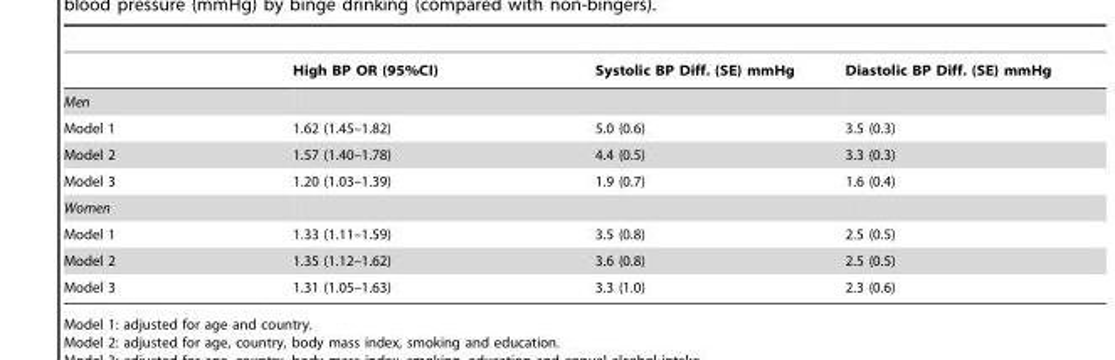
<table><thead><tr><td></td><td>High BP OR (95%CI)</td><td>Systolic BP Diff. (SE) mmHg</td><td>Diastolic BP Diff. (SE) mmHg</td></tr></thead><tbody><tr><td colspan="4">Men</td></tr><tr><td>Model 1</td><td>1.62 (1.45–1.82)</td><td>5.0 (0.6)</td><td>3.5 (0.3)</td></tr><tr><td>Model 2</td><td>1.57 (1.40–1.78)</td><td>4.4 (0.5)</td><td>3.3 (0.3)</td></tr><tr><td>Model 3</td><td>1.20 (1.03–1.39)</td><td>1.9 (0.7)</td><td>1.6 (0.4)</td></tr><tr><td colspan="4">Women</td></tr><tr><td>Model 1</td><td>1.33 (1.11–1.59)</td><td>3.5 (0.8)</td><td>2.5 (0.5)</td></tr><tr><td>Model 2</td><td>1.35 (1.12–1.62)</td><td>3.6 (0.8)</td><td>2.5 (0.5)</td></tr><tr><td>Model 3</td><td>1.31 (1.05–1.63)</td><td>3.3 (1.0)</td><td>2.3 (0.6)</td></tr></tbody></table>